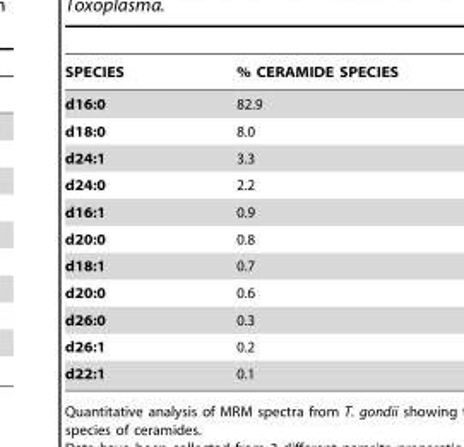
<table><thead><tr><td>SPECIES</td><td>% CERAMIDE SPECIES</td></tr></thead><tbody><tr><td>d16:0</td><td>82.9</td></tr><tr><td>d18:0</td><td>8.0</td></tr><tr><td>d24:1</td><td>3.3</td></tr><tr><td>d24:0</td><td>2.2</td></tr><tr><td>d16:1</td><td>0.9</td></tr><tr><td>d20:0</td><td>0.8</td></tr><tr><td>d18:1</td><td>0.7</td></tr><tr><td>d20:0</td><td>0.6</td></tr><tr><td>d26:0</td><td>0.3</td></tr><tr><td>d26:1</td><td>0.2</td></tr><tr><td>d22:1</td><td>0.1</td></tr></tbody></table>